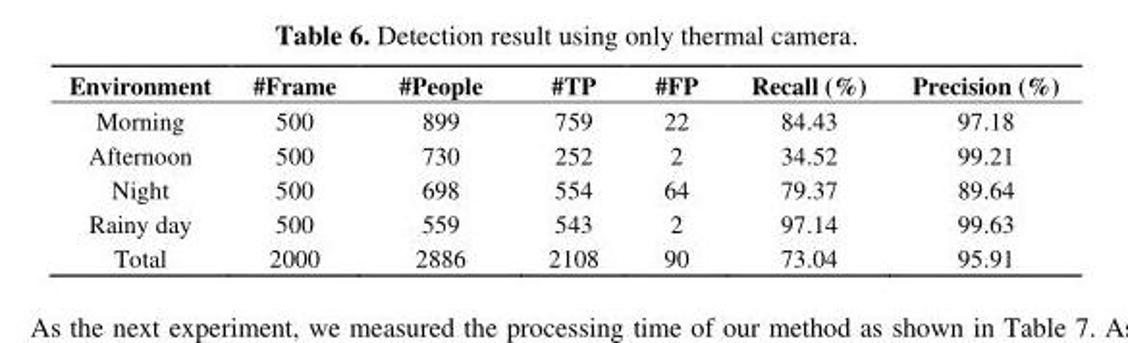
<table><thead><tr><td>Environment</td><td>#Frame</td><td>#People</td><td>#TP</td><td>#FP</td><td>Recall (%)</td><td>Precision (%)</td></tr></thead><tbody><tr><td>Morning</td><td>500</td><td>899</td><td>759</td><td>22</td><td>84.43</td><td>97.18</td></tr><tr><td>Afternoon</td><td>500</td><td>730</td><td>252</td><td>2</td><td>34.52</td><td>99.21</td></tr><tr><td>Night</td><td>500</td><td>698</td><td>554</td><td>64</td><td>79.37</td><td>89.64</td></tr><tr><td>Rainy day</td><td>500</td><td>559</td><td>543</td><td>2</td><td>97.14</td><td>99.63</td></tr><tr><td>Total</td><td>2000</td><td>2886</td><td>2108</td><td>90</td><td>73.04</td><td>95.91</td></tr></tbody></table>